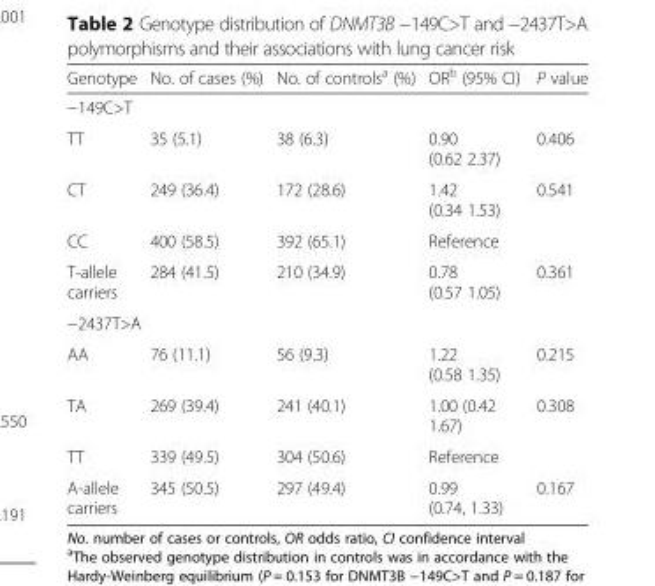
<table><thead><tr><td>Genotype</td><td>No. of cases (%)</td><td>No. of controls<sup>a</sup> (%)</td><td>OR<sup>b</sup> (95% CI)</td><td>P value</td></tr></thead><tbody><tr><td colspan="5">−149C&gt;T</td></tr><tr><td>TT</td><td>35 (5.1)</td><td>38 (6.3)</td><td>0.90 (0.62 2.37)</td><td>0.406</td></tr><tr><td>CT</td><td>249 (36.4)</td><td>172 (28.6)</td><td>1.42 (0.34 1.53)</td><td>0.541</td></tr><tr><td>CC</td><td>400 (58.5)</td><td>392 (65.1)</td><td>Reference</td><td></td></tr><tr><td>T-allele carriers</td><td>284 (41.5)</td><td>210 (34.9)</td><td>0.78 (0.57 1.05)</td><td>0.361</td></tr><tr><td colspan="5">−2437T&gt;A</td></tr><tr><td>AA</td><td>76 (11.1)</td><td>56 (9.3)</td><td>1.22 (0.58 1.35)</td><td>0.215</td></tr><tr><td>TA</td><td>269 (39.4)</td><td>241 (40.1)</td><td>1.00 (0.42 1.67)</td><td>0.308</td></tr><tr><td>TT</td><td>339 (49.5)</td><td>304 (50.6)</td><td>Reference</td><td></td></tr><tr><td>A-allele carriers</td><td>345 (50.5)</td><td>297 (49.4)</td><td>0.99 (0.74, 1.33)</td><td>0.167</td></tr></tbody></table>